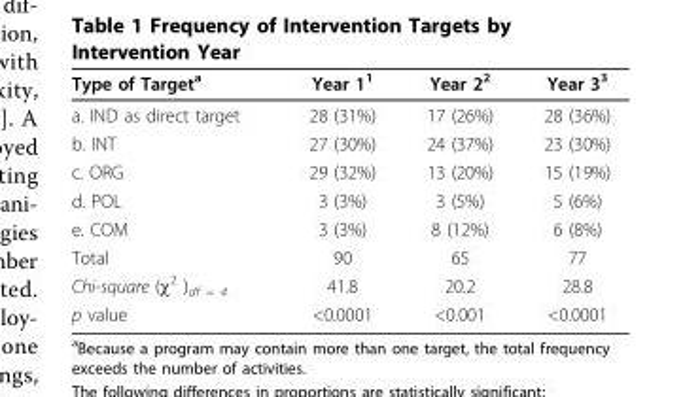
<table><thead><tr><td>Type of Target<sup>a</sup></td><td>Year 1<sup>1</sup></td><td>Year 2<sup>2</sup></td><td>Year 3<sup>3</sup></td></tr></thead><tbody><tr><td>a. IND as direct target</td><td>28 (31%)</td><td>17 (26%)</td><td>28 (36%)</td></tr><tr><td>b. INT</td><td>27 (30%)</td><td>24 (37%)</td><td>23 (30%)</td></tr><tr><td>c. ORG</td><td>29 (32%)</td><td>13 (20%)</td><td>15 (19%)</td></tr><tr><td>d. POL</td><td>3 (3%)</td><td>3 (5%)</td><td>5 (6%)</td></tr><tr><td>e. COM</td><td>3 (3%)</td><td>8 (12%)</td><td>6 (8%)</td></tr><tr><td>Total</td><td>90</td><td>65</td><td>77</td></tr><tr><td>Chi-square (χ<sup>2</sup> )<sub>df = 4</sub></td><td>41.8</td><td>20.2</td><td>28.8</td></tr><tr><td>p value</td><td>&lt;0.0001</td><td>&lt;0.001</td><td>&lt;0.0001</td></tr></tbody></table>